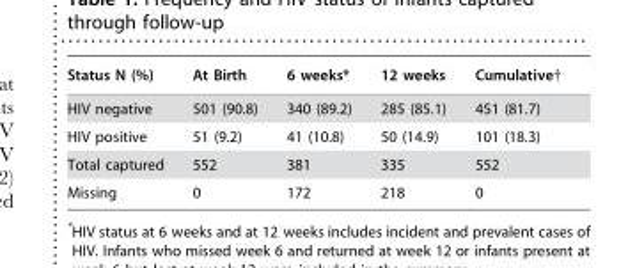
<table><thead><tr><td>Status N (%)</td><td>At Birth</td><td>6 weeks*</td><td>12 weeks</td><td>Cumulative†</td></tr></thead><tbody><tr><td>HIV negative</td><td>501 (90.8)</td><td>340 (89.2)</td><td>285 (85.1)</td><td>451 (81.7)</td></tr><tr><td>HIV positive</td><td>51 (9.2)</td><td>41 (10.8)</td><td>50 (14.9)</td><td>101 (18.3)</td></tr><tr><td>Total captured</td><td>552</td><td>381</td><td>335</td><td>552</td></tr><tr><td>Missing</td><td>0</td><td>172</td><td>218</td><td>0</td></tr></tbody></table>